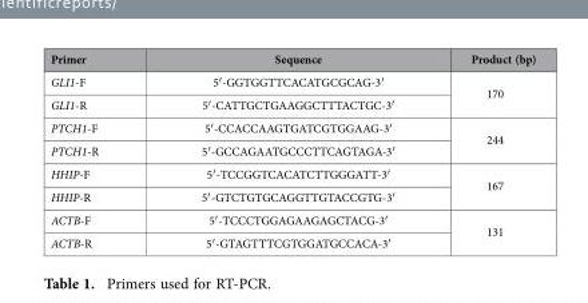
<table><thead><tr><td>Primer</td><td>Sequence</td><td>Product (bp)</td></tr></thead><tbody><tr><td>GLI1-F</td><td>5′ -GGTGGTTCACATGCGCAG-3′</td><td rowspan="2">170</td></tr><tr><td>GLI1-R</td><td>5′ -CATTGCTGAAGGCTTTACTGC-3′</td></tr><tr><td>PTCH1-F</td><td>5′ -CCACCAAGTGATCGTGGAAG-3′</td><td rowspan="2">244</td></tr><tr><td>PTCH1-R</td><td>5′ -GCCAGAATGCCCTTCAGTAGA-3′</td></tr><tr><td>HHIP-F</td><td>5′ -TCCGGTCACATCTTGGGATT-3′</td><td rowspan="2">167</td></tr><tr><td>HHIP-R</td><td>5′ -GTCTGTGCAGGTTGTACCGTG-3′</td></tr><tr><td>ACTB-F</td><td>5′ -TCCCTGGAGAAGAGCTACG-3′</td><td rowspan="2">131</td></tr><tr><td>ACTB-R</td><td>5′ -GTAGTTTCGTGGATGCCACA-3′</td></tr></tbody></table>